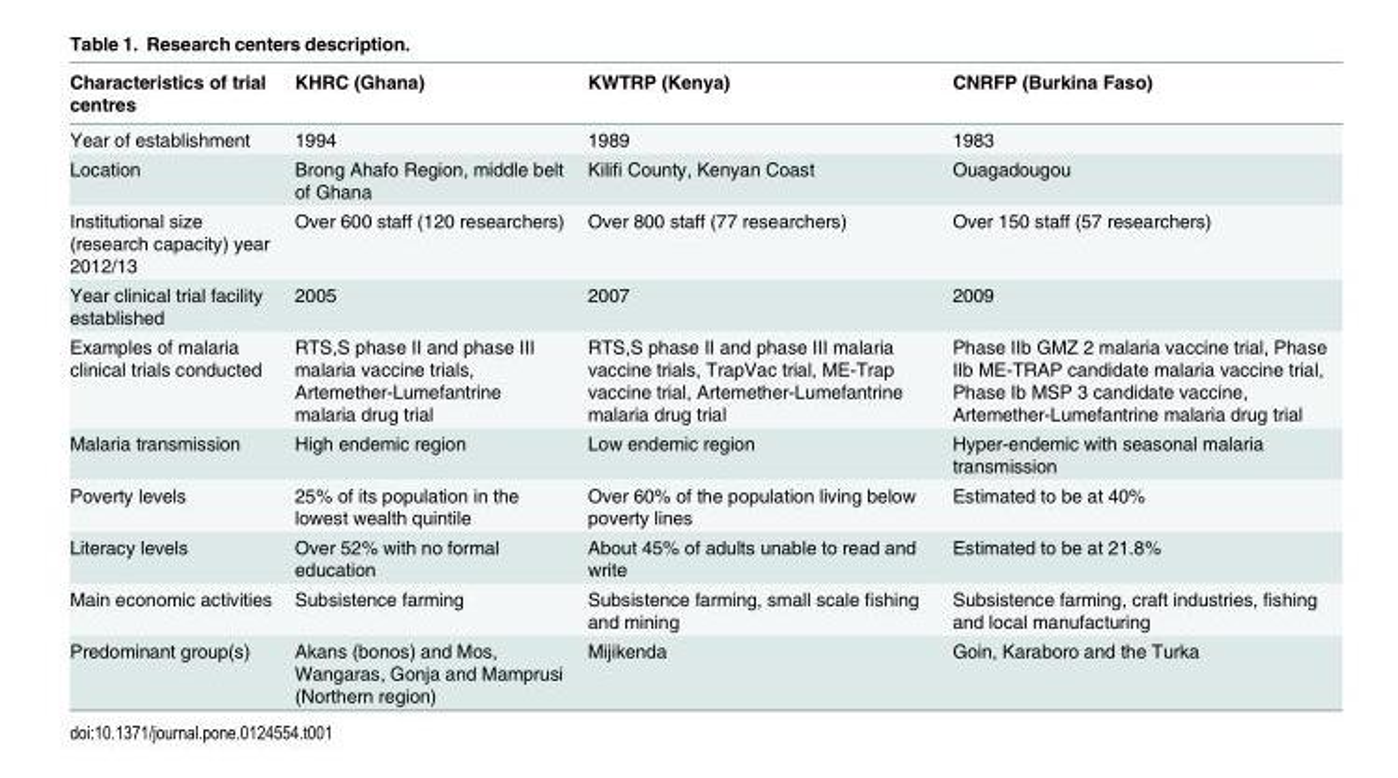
<table><thead><tr><td>Characteristics of trial centres</td><td>KHRC (Ghana)</td><td>KWTRP (Kenya)</td><td>CNRFP (Burkina Faso)</td></tr></thead><tbody><tr><td>Year of establishment</td><td>1994</td><td>1989</td><td>1983</td></tr><tr><td>Location</td><td>Brong Ahafo Region, middle belt of Ghana</td><td>Kilifi County, Kenyan Coast</td><td>Ouagadougou</td></tr><tr><td>Institutional size (research capacity) year 2012/13</td><td>Over 600 staff (120 researchers)</td><td>Over 800 staff (77 researchers)</td><td>Over 150 staff (57 researchers)</td></tr><tr><td>Year clinical trial facility established</td><td>2005</td><td>2007</td><td>2009</td></tr><tr><td>Examples of malaria clinical trials conducted</td><td>RTS,S phase II and phase III malaria vaccine trials, Artemether-Lumefantrine malaria drug trial</td><td>RTS,S phase II and phase III malaria vaccine trials, TrapVac trial, ME-Trap vaccine trial, Artemether-Lumefantrine malaria drug trial</td><td>Phase IIb GMZ 2 malaria vaccine trial, Phase IIb ME-TRAP candidate malaria vaccine trial, Phase Ib MSP 3 candidate vaccine, Artemether-Lumefantrine malaria drug trial</td></tr><tr><td>Malaria transmission</td><td>High endemic region</td><td>Low endemic region</td><td>Hyper-endemic with seasonal malaria transmission</td></tr><tr><td>Poverty levels</td><td>25% of its population in the lowest wealth quintile</td><td>Over 60% of the population living below poverty lines</td><td>Estimated to be at 40%</td></tr><tr><td>Literacy levels</td><td>Over 52% with no formal education</td><td>About 45% of adults unable to read and write</td><td>Estimated to be at 21.8%</td></tr><tr><td>Main economic activities</td><td>Subsistence farming</td><td>Subsistence farming, small scale fishing and mining</td><td>Subsistence farming, craft industries, fishing and local manufacturing</td></tr><tr><td>Predominant group(s)</td><td>Akans (bonos) and Mos, Wangaras, Gonja and Mamprusi (Northern region)</td><td>Mijikenda</td><td>Goin, Karaboro and the Turka</td></tr></tbody></table>